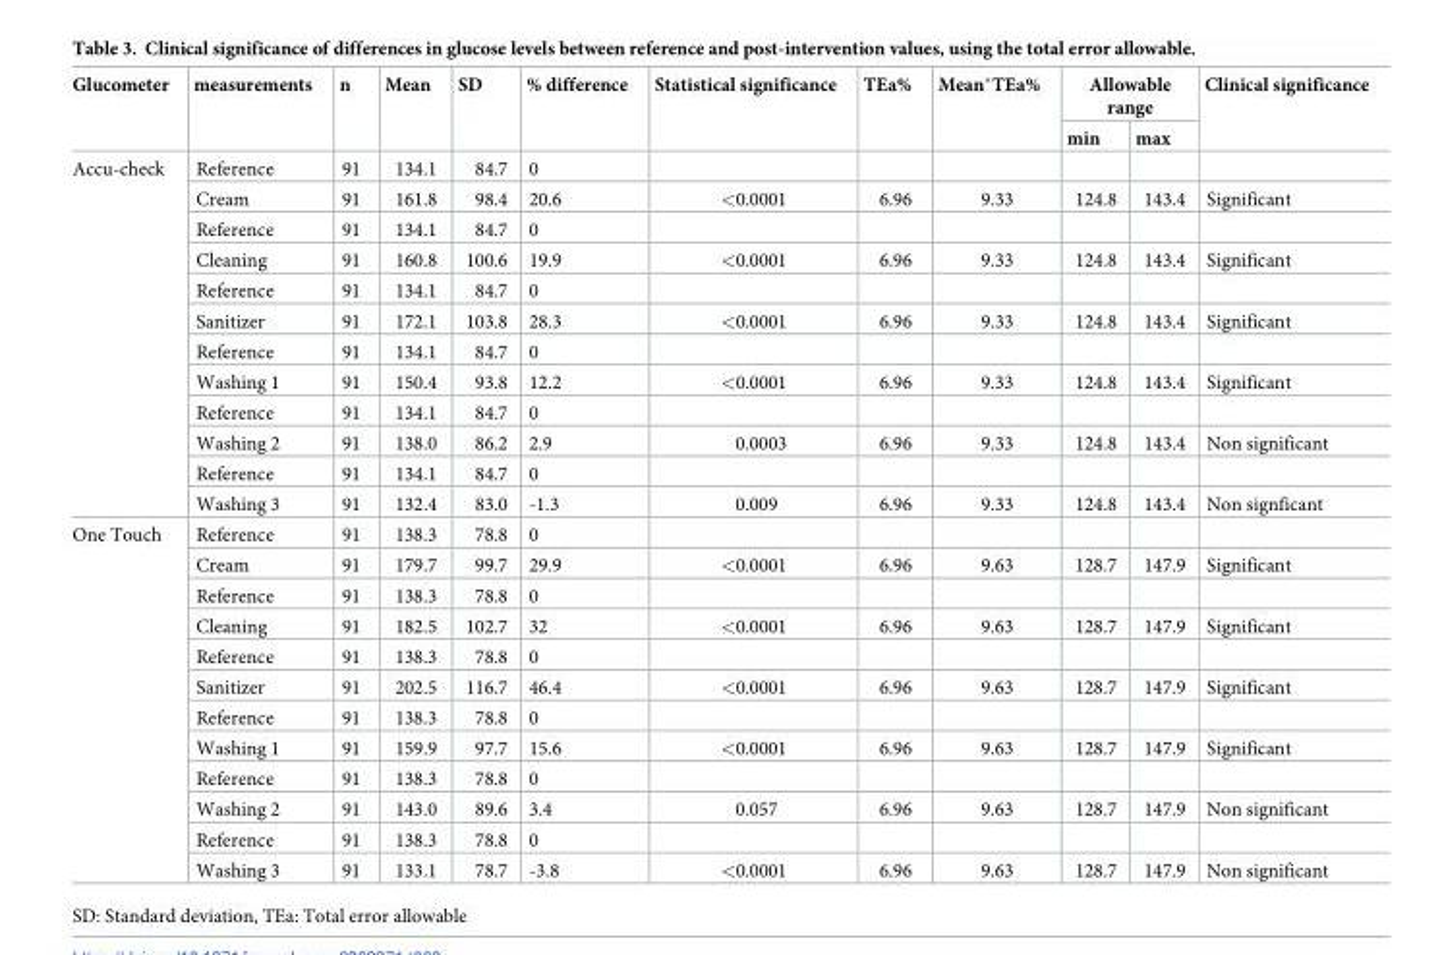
<table><thead><tr><td rowspan="2">Glucometer</td><td rowspan="2">measurements</td><td rowspan="2">n</td><td rowspan="2">Mean</td><td rowspan="2">SD</td><td rowspan="2">% difference</td><td rowspan="2">Statistical significance</td><td rowspan="2">TEa%</td><td rowspan="2">Mean*TEa%</td><td colspan="2">Allowable range</td><td rowspan="2">Clinical significance</td></tr><tr><td>min</td><td>max</td></tr></thead><tbody><tr><td rowspan="12">Accu-check</td><td>Reference</td><td>91</td><td>134.1</td><td>84.7</td><td>0</td><td></td><td></td><td></td><td></td><td></td><td></td></tr><tr><td>Cream</td><td>91</td><td>161.8</td><td>98.4</td><td>20.6</td><td>&lt;0.0001</td><td>6.96</td><td>9.33</td><td>124.8</td><td>143.4</td><td>Significant</td></tr><tr><td>Reference</td><td>91</td><td>134.1</td><td>84.7</td><td>0</td><td></td><td></td><td></td><td></td><td></td><td></td></tr><tr><td>Cleaning</td><td>91</td><td>160.8</td><td>100.6</td><td>19.9</td><td>&lt;0.0001</td><td>6.96</td><td>9.33</td><td>124.8</td><td>143.4</td><td>Significant</td></tr><tr><td>Reference</td><td>91</td><td>134.1</td><td>84.7</td><td>0</td><td></td><td></td><td></td><td></td><td></td><td></td></tr><tr><td>Sanitizer</td><td>91</td><td>172.1</td><td>103.8</td><td>28.3</td><td>&lt;0.0001</td><td>6.96</td><td>9.33</td><td>124.8</td><td>143.4</td><td>Significant</td></tr><tr><td>Reference</td><td>91</td><td>134.1</td><td>84.7</td><td>0</td><td></td><td></td><td></td><td></td><td></td><td></td></tr><tr><td>Washing 1</td><td>91</td><td>150.4</td><td>93.8</td><td>12.2</td><td>&lt;0.0001</td><td>6.96</td><td>9.33</td><td>124.8</td><td>143.4</td><td>Significant</td></tr><tr><td>Reference</td><td>91</td><td>134.1</td><td>84.7</td><td>0</td><td></td><td></td><td></td><td></td><td></td><td></td></tr><tr><td>Washing 2</td><td>91</td><td>138.0</td><td>86.2</td><td>2.9</td><td>0.0003</td><td>6.96</td><td>9.33</td><td>124.8</td><td>143.4</td><td>Non significant</td></tr><tr><td>Reference</td><td>91</td><td>134.1</td><td>84.7</td><td>0</td><td></td><td></td><td></td><td></td><td></td><td></td></tr><tr><td>Washing 3</td><td>91</td><td>132.4</td><td>83.0</td><td>-1.3</td><td>0.009</td><td>6.96</td><td>9.33</td><td>124.8</td><td>143.4</td><td>Non signficant</td></tr><tr><td rowspan="12">One Touch</td><td>Reference</td><td>91</td><td>138.3</td><td>78.8</td><td>0</td><td></td><td></td><td></td><td></td><td></td><td></td></tr><tr><td>Cream</td><td>91</td><td>179.7</td><td>99.7</td><td>29.9</td><td>&lt;0.0001</td><td>6.96</td><td>9.63</td><td>128.7</td><td>147.9</td><td>Significant</td></tr><tr><td>Reference</td><td>91</td><td>138.3</td><td>78.8</td><td>0</td><td></td><td></td><td></td><td></td><td></td><td></td></tr><tr><td>Cleaning</td><td>91</td><td>182.5</td><td>102.7</td><td>32</td><td>&lt;0.0001</td><td>6.96</td><td>9.63</td><td>128.7</td><td>147.9</td><td>Significant</td></tr><tr><td>Reference</td><td>91</td><td>138.3</td><td>78.8</td><td>0</td><td></td><td></td><td></td><td></td><td></td><td></td></tr><tr><td>Sanitizer</td><td>91</td><td>202.5</td><td>116.7</td><td>46.4</td><td>&lt;0.0001</td><td>6.96</td><td>9.63</td><td>128.7</td><td>147.9</td><td>Significant</td></tr><tr><td>Reference</td><td>91</td><td>138.3</td><td>78.8</td><td>0</td><td></td><td></td><td></td><td></td><td></td><td></td></tr><tr><td>Washing 1</td><td>91</td><td>159.9</td><td>97.7</td><td>15.6</td><td>&lt;0.0001</td><td>6.96</td><td>9.63</td><td>128.7</td><td>147.9</td><td>Significant</td></tr><tr><td>Reference</td><td>91</td><td>138.3</td><td>78.8</td><td>0</td><td></td><td></td><td></td><td></td><td></td><td></td></tr><tr><td>Washing 2</td><td>91</td><td>143.0</td><td>89.6</td><td>3.4</td><td>0.057</td><td>6.96</td><td>9.63</td><td>128.7</td><td>147.9</td><td>Non significant</td></tr><tr><td>Reference</td><td>91</td><td>138.3</td><td>78.8</td><td>0</td><td></td><td></td><td></td><td></td><td></td><td></td></tr><tr><td>Washing 3</td><td>91</td><td>133.1</td><td>78.7</td><td>-3.8</td><td>&lt;0.0001</td><td>6.96</td><td>9.63</td><td>128.7</td><td>147.9</td><td>Non significant</td></tr></tbody></table>